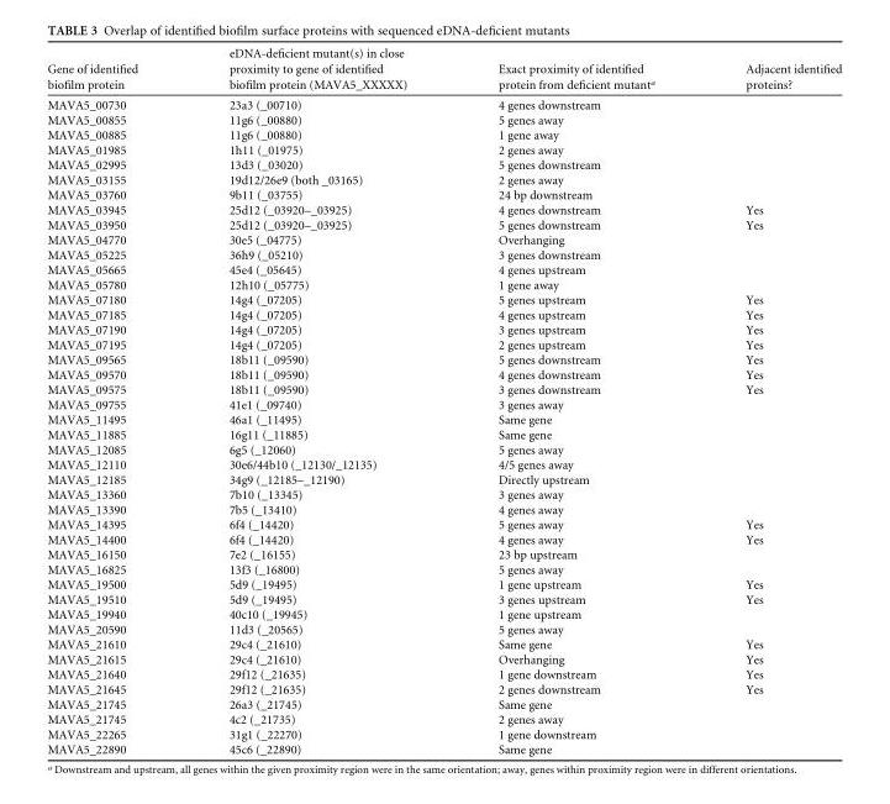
<table><thead><tr><td>Gene of identified biofilm protein</td><td>eDNA-deficient mutant(s) in close proximity to gene of identified biofilm protein (MAVA5_XXXXX)</td><td>Exact proximity of identified protein from deficient mutant<sup>a</sup></td><td>Adjacent identified proteins?</td></tr></thead><tbody><tr><td>MAVA5_00730</td><td>23a3 (_00710)</td><td>4 genes downstream</td><td></td></tr><tr><td>MAVA5_00855</td><td>11g6 (_00880)</td><td>5 genes away</td><td></td></tr><tr><td>MAVA5_00885</td><td>11g6 (_00880)</td><td>1 gene away</td><td></td></tr><tr><td>MAVA5_01985</td><td>1h11 (_01975)</td><td>2 genes away</td><td></td></tr><tr><td>MAVA5_02995</td><td>13d3 (_03020)</td><td>5 genes downstream</td><td></td></tr><tr><td>MAVA5_03155</td><td>19d12/26e9 (both _03165)</td><td>2 genes away</td><td></td></tr><tr><td>MAVA5_03760</td><td>9b11 (_03755)</td><td>24 bp downstream</td><td></td></tr><tr><td>MAVA5_03945</td><td>25d12 (_03920–_03925)</td><td>4 genes downstream</td><td>Yes</td></tr><tr><td>MAVA5_03950</td><td>25d12 (_03920–_03925)</td><td>5 genes downstream</td><td>Yes</td></tr><tr><td>MAVA5_04770</td><td>30e5 (_04775)</td><td>Overhanging</td><td></td></tr><tr><td>MAVA5_05225</td><td>36h9 (_05210)</td><td>3 genes downstream</td><td></td></tr><tr><td>MAVA5_05665</td><td>45e4 (_05645)</td><td>4 genes upstream</td><td></td></tr><tr><td>MAVA5_05780</td><td>12h10 (_05775)</td><td>1 gene away</td><td></td></tr><tr><td>MAVA5_07180</td><td>14g4 (_07205)</td><td>5 genes upstream</td><td>Yes</td></tr><tr><td>MAVA5_07185</td><td>14g4 (_07205)</td><td>4 genes upstream</td><td>Yes</td></tr><tr><td>MAVA5_07190</td><td>14g4 (_07205)</td><td>3 genes upstream</td><td>Yes</td></tr><tr><td>MAVA5_07195</td><td>14g4 (_07205)</td><td>2 genes upstream</td><td>Yes</td></tr><tr><td>MAVA5_09565</td><td>18b11 (_09590)</td><td>5 genes downstream</td><td>Yes</td></tr><tr><td>MAVA5_09570</td><td>18b11 (_09590)</td><td>4 genes downstream</td><td>Yes</td></tr><tr><td>MAVA5_09575</td><td>18b11 (_09590)</td><td>3 genes downstream</td><td>Yes</td></tr><tr><td>MAVA5_09755</td><td>41e1 (_09740)</td><td>3 genes away</td><td></td></tr><tr><td>MAVA5_11495</td><td>46a1 (_11495)</td><td>Same gene</td><td></td></tr><tr><td>MAVA5_11885</td><td>16g11 (_11885)</td><td>Same gene</td><td></td></tr><tr><td>MAVA5_12085</td><td>6g5 (_12060)</td><td>5 genes away</td><td></td></tr><tr><td>MAVA5_12110</td><td>30e6/44b10 (_12130/_12135)</td><td>4/5 genes away</td><td></td></tr><tr><td>MAVA5_12185</td><td>34g9 (_12185–_12190)</td><td>Directly upstream</td><td></td></tr><tr><td>MAVA5_13360</td><td>7b10 (_13345)</td><td>3 genes away</td><td></td></tr><tr><td>MAVA5_13390</td><td>7b5 (_13410)</td><td>4 genes away</td><td></td></tr><tr><td>MAVA5_14395</td><td>6f4 (_14420)</td><td>5 genes away</td><td>Yes</td></tr><tr><td>MAVA5_14400</td><td>6f4 (_14420)</td><td>4 genes away</td><td>Yes</td></tr><tr><td>MAVA5_16150</td><td>7e2 (_16155)</td><td>23 bp upstream</td><td></td></tr><tr><td>MAVA5_16825</td><td>13f3 (_16800)</td><td>5 genes away</td><td></td></tr><tr><td>MAVA5_19500</td><td>5d9 (_19495)</td><td>1 gene upstream</td><td>Yes</td></tr><tr><td>MAVA5_19510</td><td>5d9 (_19495)</td><td>3 genes upstream</td><td>Yes</td></tr><tr><td>MAVA5_19940</td><td>40c10 (_19945)</td><td>1 gene upstream</td><td></td></tr><tr><td>MAVA5_20590</td><td>11d3 (_20565)</td><td>5 genes away</td><td></td></tr><tr><td>MAVA5_21610</td><td>29c4 (_21610)</td><td>Same gene</td><td>Yes</td></tr><tr><td>MAVA5_21615</td><td>29c4 (_21610)</td><td>Overhanging</td><td>Yes</td></tr><tr><td>MAVA5_21640</td><td>29f12 (_21635)</td><td>1 gene downstream</td><td>Yes</td></tr><tr><td>MAVA5_21645</td><td>29f12 (_21635)</td><td>2 genes downstream</td><td>Yes</td></tr><tr><td>MAVA5_21745</td><td>26a3 (_21745)</td><td>Same gene</td><td></td></tr><tr><td>MAVA5_21745</td><td>4c2 (_21735)</td><td>2 genes away</td><td></td></tr><tr><td>MAVA5_22265</td><td>31g1 (_22270)</td><td>1 gene downstream</td><td></td></tr><tr><td>MAVA5_22890</td><td>45c6 (_22890)</td><td>Same gene</td><td></td></tr></tbody></table>